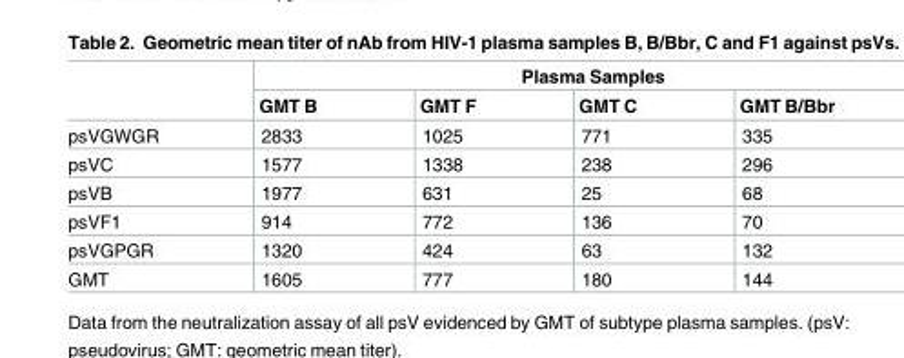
<table><thead><tr><td rowspan="2"></td><td colspan="4">Plasma Samples</td></tr><tr><td>GMT B</td><td>GMT F</td><td>GMT C</td><td>GMT B/Bbr</td></tr></thead><tbody><tr><td>psVGWGR</td><td>2833</td><td>1025</td><td>771</td><td>335</td></tr><tr><td>psVC</td><td>1577</td><td>1338</td><td>238</td><td>296</td></tr><tr><td>psVB</td><td>1977</td><td>631</td><td>25</td><td>68</td></tr><tr><td>psVF1</td><td>914</td><td>772</td><td>136</td><td>70</td></tr><tr><td>psVGPGR</td><td>1320</td><td>424</td><td>63</td><td>132</td></tr><tr><td>GMT</td><td>1605</td><td>777</td><td>180</td><td>144</td></tr></tbody></table>